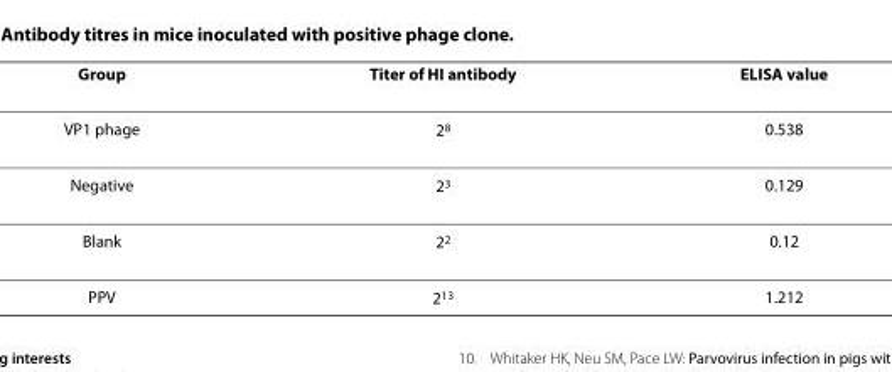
<table><thead><tr><td>Group</td><td>Titer of HI antibody</td><td>ELISA value</td></tr></thead><tbody><tr><td>VP1 phage</td><td>2<sup>8</sup></td><td>0.538</td></tr><tr><td>Negative</td><td>2<sup>3</sup></td><td>0.129</td></tr><tr><td>Blank</td><td>2<sup>2</sup></td><td>0.12</td></tr><tr><td>PPV</td><td>2<sup>13</sup></td><td>1.212</td></tr></tbody></table>